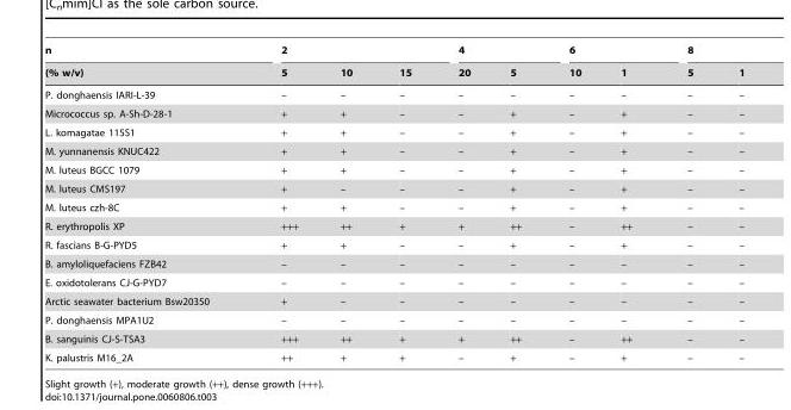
<table><thead><tr><td rowspan="2">n (% w/v)</td><td colspan="3">2</td><td colspan="2">4</td><td colspan="2">6</td><td colspan="2">8</td></tr><tr><td>5</td><td>10</td><td>15</td><td>20</td><td>5</td><td>10</td><td>1</td><td>5</td><td>1</td></tr></thead><tbody><tr><td>P. donghaensis IARI-L-39</td><td>–</td><td>–</td><td>–</td><td>–</td><td>–</td><td>–</td><td>–</td><td>–</td><td>–</td></tr><tr><td>Micrococcus sp. A-Sh-D-28-1</td><td>+</td><td>+</td><td>–</td><td>–</td><td>+</td><td>–</td><td>+</td><td>–</td><td>–</td></tr><tr><td>L. komagatae 115S1</td><td>+</td><td>+</td><td>–</td><td>–</td><td>+</td><td>–</td><td>+</td><td>–</td><td>–</td></tr><tr><td>M. yunnanensis KNUC422</td><td>+</td><td>+</td><td>–</td><td>–</td><td>+</td><td>–</td><td>+</td><td>–</td><td>–</td></tr><tr><td>M. luteus BGCC 1079</td><td>+</td><td>+</td><td>–</td><td>–</td><td>+</td><td>–</td><td>+</td><td>–</td><td>–</td></tr><tr><td>M. luteus CMS197</td><td>+</td><td>–</td><td>–</td><td>–</td><td>+</td><td>–</td><td>+</td><td>–</td><td>–</td></tr><tr><td>M. luteus czh-8C</td><td>+</td><td>+</td><td>–</td><td>–</td><td>+</td><td>–</td><td>+</td><td>–</td><td>–</td></tr><tr><td>R. erythropolis XP</td><td>+++</td><td>++</td><td>+</td><td>+</td><td>++</td><td>–</td><td>++</td><td>–</td><td>–</td></tr><tr><td>R. fascians B-G-PYD5</td><td>+</td><td>+</td><td>–</td><td>–</td><td>+</td><td>–</td><td>+</td><td>–</td><td>–</td></tr><tr><td>B. amyloliquefaciens FZB42</td><td>–</td><td>–</td><td>–</td><td>–</td><td>–</td><td>–</td><td>–</td><td>–</td><td>–</td></tr><tr><td>E. oxidotolerans CJ-G-PYD7</td><td>–</td><td>–</td><td>–</td><td>–</td><td>–</td><td>–</td><td>–</td><td>–</td><td>–</td></tr><tr><td>Arctic seawater bacterium Bsw20350</td><td>+</td><td>–</td><td>–</td><td>–</td><td>–</td><td>–</td><td>–</td><td>–</td><td>–</td></tr><tr><td>P. donghaensis MPA1U2</td><td>–</td><td>–</td><td>–</td><td>–</td><td>–</td><td>–</td><td>–</td><td>–</td><td>–</td></tr><tr><td>B. sanguinis CJ-S-TSA3</td><td>+++</td><td>++</td><td>+</td><td>+</td><td>++</td><td>–</td><td>++</td><td>–</td><td>–</td></tr><tr><td>K. palustris M16_2A</td><td>++</td><td>+</td><td>+</td><td>–</td><td>+</td><td>–</td><td>+</td><td>–</td><td>–</td></tr></tbody></table>